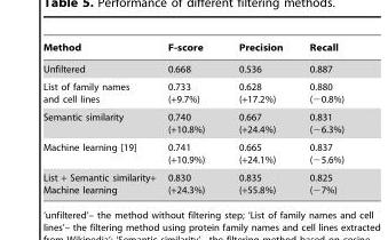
<table><thead><tr><td>Method</td><td>F-score</td><td>Precision</td><td>Recall</td></tr></thead><tbody><tr><td>Unfiltered</td><td>0.668</td><td>0.536</td><td>0.887</td></tr><tr><td>List of family names and cell lines</td><td>0.733 (+9.7%)</td><td>0.628 (+17.2%)</td><td>0.880 (−0.8%)</td></tr><tr><td>Semantic similarity</td><td>0.740 (+10.8%)</td><td>0.667 (+24.4%)</td><td>0.831 (−6.3%)</td></tr><tr><td>Machine learning [19]</td><td>0.741 (+10.9%)</td><td>0.665 (+24.1%)</td><td>0.837 (−5.6%)</td></tr><tr><td>List + Semantic similarity+ Machine learning</td><td>0.830 (+24.3%)</td><td>0.835 (+55.8%)</td><td>0.825 (−7%)</td></tr></tbody></table>